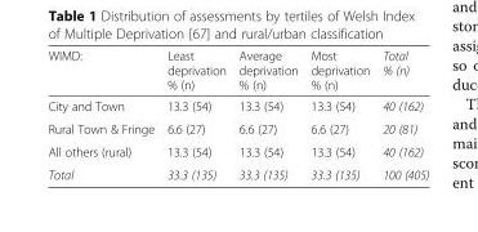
<table><thead><tr><td>WIMD:</td><td>Least deprivation % (n)</td><td>Average deprivation % (n)</td><td>Most deprivation % (n)</td><td>Total % (n)</td></tr></thead><tbody><tr><td>City and Town</td><td>13.3 (54)</td><td>13.3 (54)</td><td>13.3 (54)</td><td>40 (162)</td></tr><tr><td>Rural Town &amp; Fringe</td><td>6.6 (27)</td><td>6.6 (27)</td><td>6.6 (27)</td><td>20 (81)</td></tr><tr><td>All others (rural)</td><td>13.3 (54)</td><td>13.3 (54)</td><td>13.3 (54)</td><td>40 (162)</td></tr><tr><td>Total</td><td>33.3 (135)</td><td>33.3 (135)</td><td>33.3 (135)</td><td>100 (405)</td></tr></tbody></table>